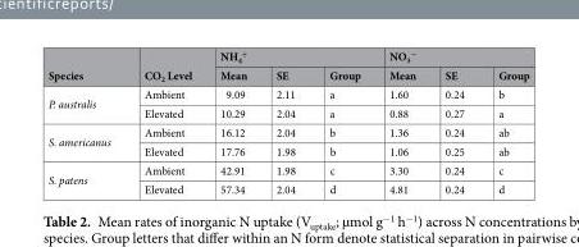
<table><thead><tr><td rowspan="2">Species</td><td rowspan="2">CO<sub>2</sub> Level</td><td colspan="3">NH<sub>4</sub> <sup>+</sup></td><td colspan="3">NO<sub>3</sub> <sup>−</sup></td></tr><tr><td>Mean</td><td>SE</td><td>Group</td><td>Mean</td><td>SE</td><td>Group</td></tr></thead><tbody><tr><td rowspan="2">P. australis</td><td>Ambient</td><td>9.09</td><td>2.11</td><td>a</td><td>1.60</td><td>0.24</td><td>b</td></tr><tr><td>Elevated</td><td>10.29</td><td>2.04</td><td>a</td><td>0.88</td><td>0.27</td><td>a</td></tr><tr><td rowspan="2">S. americanus</td><td>Ambient</td><td>16.12</td><td>2.04</td><td>b</td><td>1.36</td><td>0.24</td><td>ab</td></tr><tr><td>Elevated</td><td>17.76</td><td>1.98</td><td>b</td><td>1.06</td><td>0.25</td><td>ab</td></tr><tr><td rowspan="2">S. patens</td><td>Ambient</td><td>42.91</td><td>1.98</td><td>c</td><td>3.30</td><td>0.24</td><td>c</td></tr><tr><td>Elevated</td><td>57.34</td><td>2.04</td><td>d</td><td>4.81</td><td>0.24</td><td>d</td></tr></tbody></table>